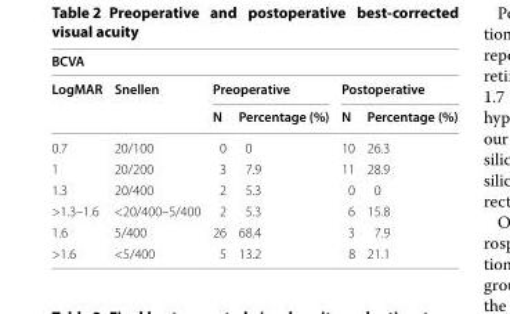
<table><thead><tr><td colspan="6">BCVA</td></tr><tr><td rowspan="2">LogMAR</td><td rowspan="2">Snellen</td><td colspan="2">Preoperative</td><td colspan="2">Postoperative</td></tr><tr><td>N</td><td>Percentage (%)</td><td>N</td><td>Percentage (%)</td></tr></thead><tbody><tr><td>0.7</td><td>20/100</td><td>0</td><td>0</td><td>10</td><td>26.3</td></tr><tr><td>1</td><td>20/200</td><td>3</td><td>7.9</td><td>11</td><td>28.9</td></tr><tr><td>1.3</td><td>20/400</td><td>2</td><td>5.3</td><td>0</td><td>0</td></tr><tr><td>&gt;1.3–1.6</td><td>&lt;20/400–5/400</td><td>2</td><td>5.3</td><td>6</td><td>15.8</td></tr><tr><td>1.6</td><td>5/400</td><td>26</td><td>68.4</td><td>3</td><td>7.9</td></tr><tr><td>&gt;1.6</td><td>&lt;5/400</td><td>5</td><td>13.2</td><td>8</td><td>21.1</td></tr></tbody></table>